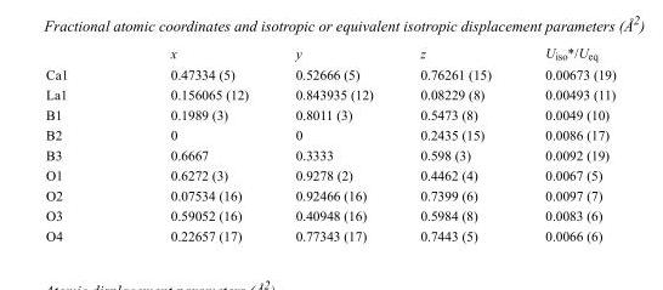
<table><thead><tr><td></td><td>x</td><td>y</td><td>z</td><td>U<sub>iso</sub>*/U<sub>eq</sub></td></tr></thead><tbody><tr><td>Ca1</td><td>0.47334 (5)</td><td>0.52666 (5)</td><td>0.76261 (15)</td><td>0.00673 (19)</td></tr><tr><td>La1</td><td>0.156065 (12)</td><td>0.843935 (12)</td><td>0.08229 (8)</td><td>0.00493 (11)</td></tr><tr><td>B1</td><td>0.1989 (3)</td><td>0.8011 (3)</td><td>0.5473 (8)</td><td>0.0049 (10)</td></tr><tr><td>B2</td><td>0</td><td>0</td><td>0.2435 (15)</td><td>0.0086 (17)</td></tr><tr><td>B3</td><td>0.6667</td><td>0.3333</td><td>0.598 (3)</td><td>0.0092 (19)</td></tr><tr><td>O1</td><td>0.6272 (3)</td><td>0.9278 (2)</td><td>0.4462 (4)</td><td>0.0067 (5)</td></tr><tr><td>O2</td><td>0.07534 (16)</td><td>0.92466 (16)</td><td>0.7399 (6)</td><td>0.0097 (7)</td></tr><tr><td>O3</td><td>0.59052 (16)</td><td>0.40948 (16)</td><td>0.5984 (8)</td><td>0.0083 (6)</td></tr><tr><td>O4</td><td>0.22657 (17)</td><td>0.77343 (17)</td><td>0.7443 (5)</td><td>0.0066 (6)</td></tr></tbody></table>